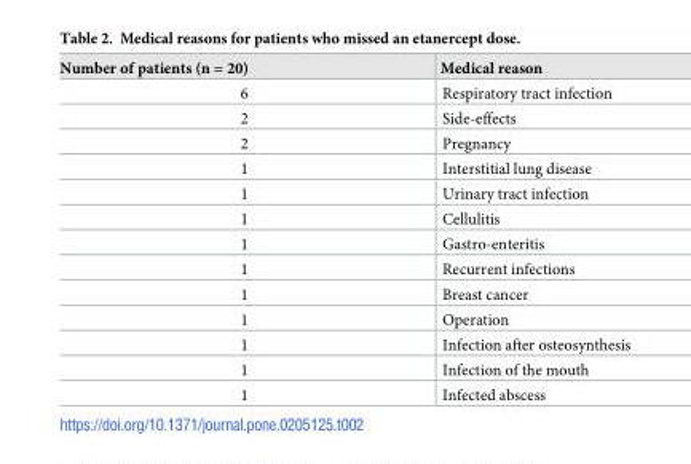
<table><thead><tr><td>Number of patients (n = 20)</td><td>Medical reason</td></tr></thead><tbody><tr><td>6</td><td>Respiratory tract infection</td></tr><tr><td>2</td><td>Side-effects</td></tr><tr><td>2</td><td>Pregnancy</td></tr><tr><td>1</td><td>Interstitial lung disease</td></tr><tr><td>1</td><td>Urinary tract infection</td></tr><tr><td>1</td><td>Cellulitis</td></tr><tr><td>1</td><td>Gastro-enteritis</td></tr><tr><td>1</td><td>Recurrent infections</td></tr><tr><td>1</td><td>Breast cancer</td></tr><tr><td>1</td><td>Operation</td></tr><tr><td>1</td><td>Infection after osteosynthesis</td></tr><tr><td>1</td><td>Infection of the mouth</td></tr><tr><td>1</td><td>Infected abscess</td></tr></tbody></table>